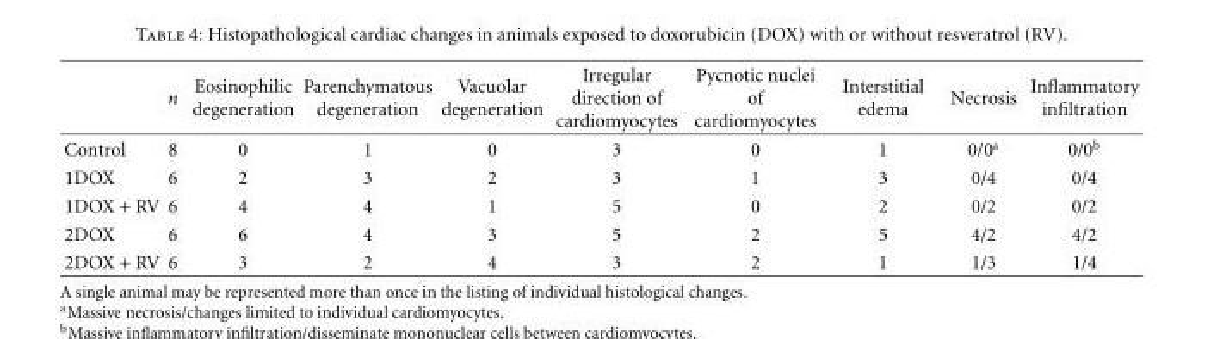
<table><thead><tr><td></td><td>n</td><td>Eosinophilic degeneration</td><td>Parenchymatous degeneration</td><td>Vacuolar degeneration</td><td>Irregular direction of cardiomyocytes</td><td>Pycnotic nuclei of cardiomyocytes</td><td>Interstitial edema</td><td>Necrosis</td><td>Inflammatory infiltration</td></tr></thead><tbody><tr><td>Control</td><td>8</td><td>0</td><td>1</td><td>0</td><td>3</td><td>0</td><td>1</td><td>0/0<sup>a</sup></td><td>0/0<sup>b</sup></td></tr><tr><td>1DOX</td><td>6</td><td>2</td><td>3</td><td>2</td><td>3</td><td>1</td><td>3</td><td>0/4</td><td>0/4</td></tr><tr><td>1DOX + RV</td><td>6</td><td>4</td><td>4</td><td>1</td><td>5</td><td>0</td><td>2</td><td>0/2</td><td>0/2</td></tr><tr><td>2DOX</td><td>6</td><td>6</td><td>4</td><td>3</td><td>5</td><td>2</td><td>5</td><td>4/2</td><td>4/2</td></tr><tr><td>2DOX + RV</td><td>6</td><td>3</td><td>2</td><td>4</td><td>3</td><td>2</td><td>1</td><td>1/3</td><td>1/4</td></tr></tbody></table>